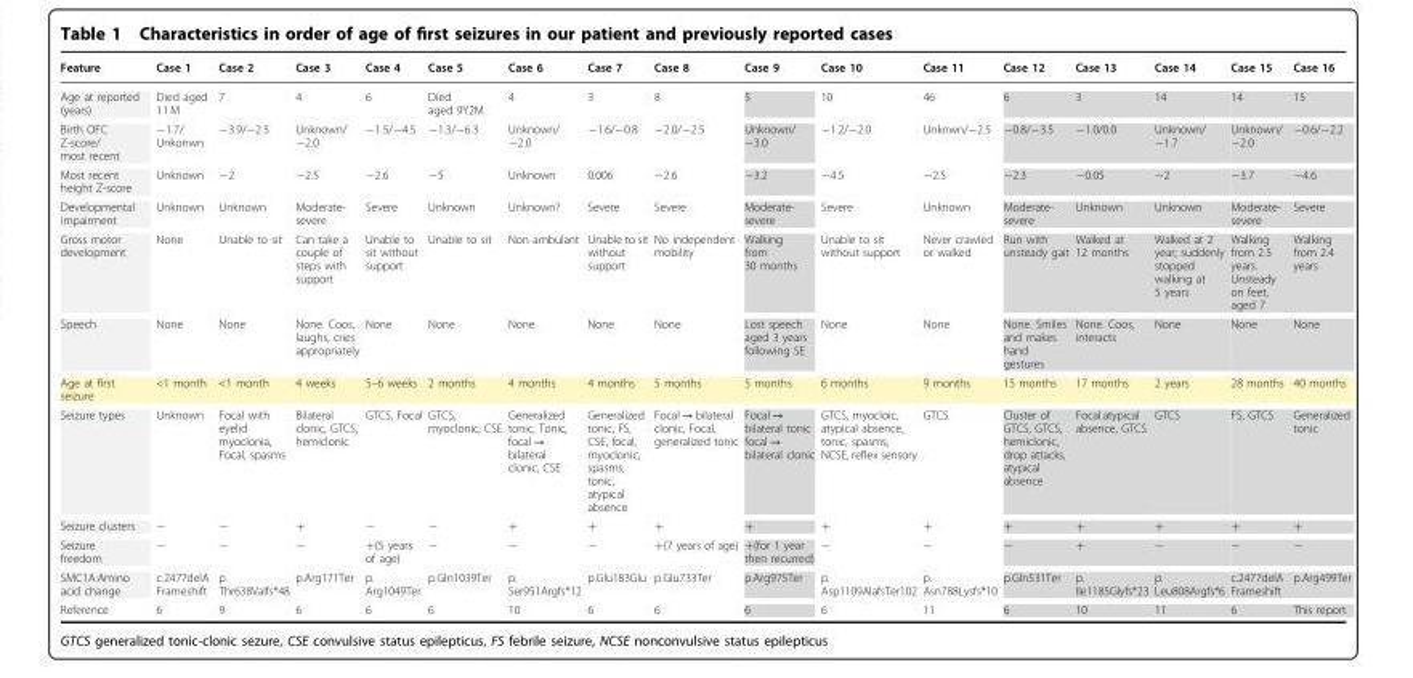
<table><thead><tr><td>Feature</td><td>Case 1</td><td>Case 2</td><td>Case 3</td><td>Case 4</td><td>Case 5</td><td>Case 6</td><td>Case 7</td><td>Case 8</td><td>Case 9</td><td>Case 10</td><td>Case 11</td><td>Case 12</td><td>Case 13</td><td>Case 14</td><td>Case 15</td><td>Case 16</td></tr></thead><tbody><tr><td>Age at reported (years)</td><td>Died aged 11 M</td><td>7</td><td>4</td><td>6</td><td>Died aged 9Y2M</td><td>4</td><td>3</td><td>8</td><td>5</td><td>10</td><td>46</td><td>6</td><td>3</td><td>14</td><td>14</td><td>15</td></tr><tr><td>Birth OFC Z-score/ most recent</td><td>−1.7/ Unkonwn</td><td>−3.9/−2.5</td><td>Unknown/ −2.0</td><td>−1.5/−4.5</td><td>−1.3/−6.3</td><td>Unknown/ −2.0</td><td>−1.6/−0.8</td><td>−2.0/−2.5</td><td>Unknown/ −3.0</td><td>−1.2/−2.0</td><td>Unknwn/−2.5</td><td>−0.8/−3.5</td><td>−1.0/0.0</td><td>Unknown/ −1.7</td><td>Unknown/ −2.0</td><td>−0.6/−2.2</td></tr><tr><td>Most recent height Z-score</td><td>Unknown</td><td>−2</td><td>−2.5</td><td>−2.6</td><td>−5</td><td>Unknown</td><td>0.006</td><td>−2.6</td><td>−3.2</td><td>−4.5</td><td>−2.5</td><td>−2.3</td><td>−0.05</td><td>−2</td><td>−3.7</td><td>−4.6</td></tr><tr><td>Developmental impairment</td><td>Unknown</td><td>Unknown</td><td>Moderate- severe</td><td>Severe</td><td>Unknown</td><td>Unknown?</td><td>Severe</td><td>Severe</td><td>Moderate- severe</td><td>Severe</td><td>Unknown</td><td>Moderate- severe</td><td>Unknown</td><td>Unknown</td><td>Moderate- severe</td><td>Severe</td></tr><tr><td>Gross motor development</td><td>None</td><td>Unable to sit</td><td>Can take a couple of steps with support</td><td>Unable to sit without support</td><td>Unable to sit</td><td>Non ambulant</td><td>Unable to sit without support</td><td>No independent mobility</td><td>Walking from 30 months</td><td>Unable to sit without support</td><td>Never crawled or walked</td><td>Run with unsteady gait</td><td>Walked at 12 months</td><td>Walked at 2 year; suddenly stopped walking at 5 years</td><td>Walking from 2.5 years. Unsteady on feet, aged 7</td><td>Walking from 2.4 years</td></tr><tr><td>Speech</td><td>None</td><td>None</td><td>None. Coos, laughs, cries appropriately</td><td>None</td><td>None</td><td>None</td><td>None</td><td>None</td><td>Lost speech aged 3 years following SE</td><td>None</td><td>None</td><td>None. Smiles and makes hand gestures</td><td>None. Coos, interacts</td><td>None</td><td>None</td><td>None</td></tr><tr><td>Age at first seizure</td><td>&lt;1 month</td><td>&lt;1 month</td><td>4 weeks</td><td>5–6 weeks</td><td>2 months</td><td>4 months</td><td>4 months</td><td>5 months</td><td>5 months</td><td>6 months</td><td>9 months</td><td>15 months</td><td>17 months</td><td>2 years</td><td>28 months</td><td>40 months</td></tr><tr><td>Seizure types</td><td>Unknown</td><td>Focal with eyelid myoclonia, Focal, spasms</td><td>Bilateral clonic, GTCS, hemiclonic</td><td>GTCS, Focal</td><td>GTCS, myoclonic, CSE</td><td>Generalized tonic, Tonic, focal → bilateral clonic, CSE</td><td>Generalized tonic, FS, CSE, focal, myoclonic, spasms, tonic, atypical absence</td><td>Focal → bilateral clonic, Focal, generalized tonic</td><td>Focal → bilateral tonic focal → bilateral clonic</td><td>GTCS, myocloic, atypical absence, tonic, spasms, NCSE, reflex sensory</td><td>GTCS</td><td>Cluster of GTCS, GTCS, hemiclonic, drop attacks, atypical absence</td><td>Focal.atypical absence, GTCS</td><td>GTCS</td><td>FS, GTCS</td><td>Generalized tonic</td></tr><tr><td>Seizure clusters</td><td>−</td><td>−</td><td>+</td><td>−</td><td>−</td><td>+</td><td>+</td><td>+</td><td>+</td><td>+</td><td>+</td><td>+</td><td>+</td><td>+</td><td>+</td><td>+</td></tr><tr><td>Seizure freedom</td><td>−</td><td>−</td><td>−</td><td>+(5 years of age)</td><td>−</td><td>−</td><td>−</td><td>+(7 years of age)</td><td>+(for 1 year then recurred)</td><td>−</td><td>−</td><td>−</td><td>+</td><td>−</td><td>−</td><td>−</td></tr><tr><td>SMC1A:Amino acid change</td><td>c.2477delA Frameshift</td><td>p. Thr638Valfs*48</td><td>p.Arg171Ter</td><td>p. Arg1049Ter</td><td>p.Gln1039Ter</td><td>p. Ser951Argfs*12</td><td>p.Glu183Glu</td><td>p.Glu733Ter</td><td>p.Arg975Ter</td><td>p. Asp1109AlafsTer102</td><td>p. Asn788Lysfs*10</td><td>p.Gln531Ter</td><td>p. Ile1185Glyfs*23</td><td>p. Leu808Argfs*6</td><td>c.2477delA Frameshift</td><td>p.Arg499Ter</td></tr><tr><td>Reference</td><td>6</td><td>9</td><td>6</td><td>6</td><td>6</td><td>10</td><td>6</td><td>6</td><td>6</td><td>6</td><td>11</td><td>6</td><td>10</td><td>11</td><td>6</td><td>This report</td></tr></tbody></table>